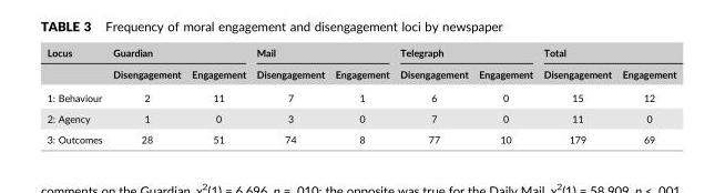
<table><thead><tr><td rowspan="2">Locus</td><td colspan="2">Guardian</td><td colspan="2">Mail</td><td colspan="2">Telegraph</td><td colspan="2">Total</td></tr><tr><td>Disengagement</td><td>Engagement</td><td>Disengagement</td><td>Engagement</td><td>Disengagement</td><td>Engagement</td><td>Disengagement</td><td>Engagement</td></tr></thead><tbody><tr><td>1: Behaviour</td><td>2</td><td>11</td><td>7</td><td>1</td><td>6</td><td>0</td><td>15</td><td>12</td></tr><tr><td>2: Agency</td><td>1</td><td>0</td><td>3</td><td>0</td><td>7</td><td>0</td><td>11</td><td>0</td></tr><tr><td>3: Outcomes</td><td>28</td><td>51</td><td>74</td><td>8</td><td>77</td><td>10</td><td>179</td><td>69</td></tr></tbody></table>